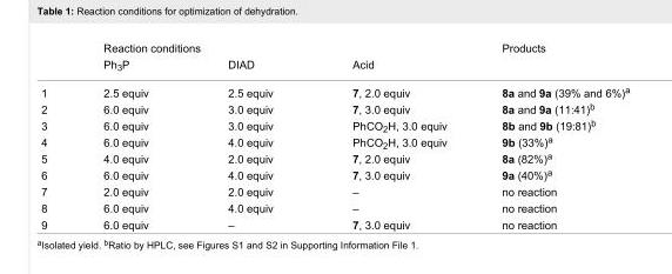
<table><thead><tr><td rowspan="2"></td><td colspan="3">Reaction conditions</td><td rowspan="2">Products</td></tr><tr><td>Ph<sub>3</sub>P</td><td>DIAD</td><td>Acid</td></tr></thead><tbody><tr><td>1</td><td>2.5 equiv</td><td>2.5 equiv</td><td>7, 2.0 equiv</td><td>8a and 9a (39% and 6%)<sup>a</sup></td></tr><tr><td>2</td><td>6.0 equiv</td><td>3.0 equiv</td><td>7, 3.0 equiv</td><td>8a and 9a (11:41)<sup>b</sup></td></tr><tr><td>3</td><td>6.0 equiv</td><td>3.0 equiv</td><td>PhCO<sub>2</sub>H, 3.0 equiv</td><td>8b and 9b (19:81)<sup>b</sup></td></tr><tr><td>4</td><td>6.0 equiv</td><td>4.0 equiv</td><td>PhCO<sub>2</sub>H, 3.0 equiv</td><td>9b (33%)<sup>a</sup></td></tr><tr><td>5</td><td>4.0 equiv</td><td>2.0 equiv</td><td>7, 2.0 equiv</td><td>8a (82%)<sup>a</sup></td></tr><tr><td>6</td><td>6.0 equiv</td><td>4.0 equiv</td><td>7, 3.0 equiv</td><td>9a (40%)<sup>a</sup></td></tr><tr><td>7</td><td>2.0 equiv</td><td>2.0 equiv</td><td>–</td><td>no reaction</td></tr><tr><td>8</td><td>6.0 equiv</td><td>4.0 equiv</td><td>–</td><td>no reaction</td></tr><tr><td>9</td><td>6.0 equiv</td><td>–</td><td>7, 3.0 equiv</td><td>no reaction</td></tr></tbody></table>